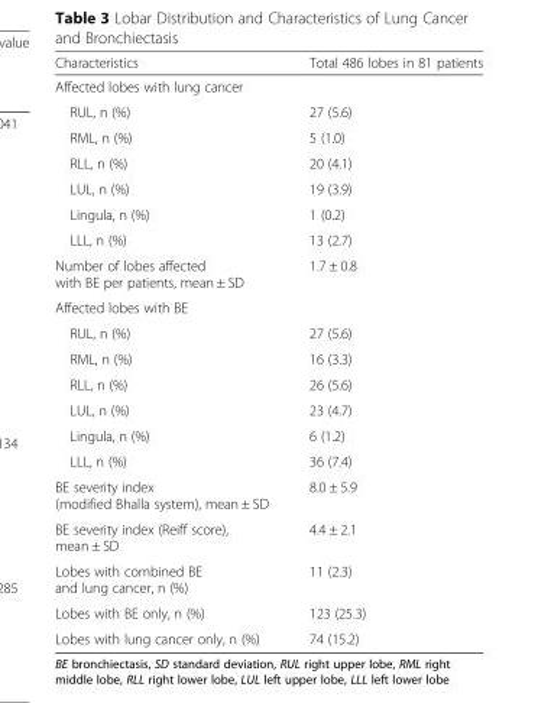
<table><thead><tr><td>Characteristics</td><td>Total 486 lobes in 81 patients</td></tr></thead><tbody><tr><td colspan="2">Affected lobes with lung cancer</td></tr><tr><td>RUL, n (%)</td><td>27 (5.6)</td></tr><tr><td>RML, n (%)</td><td>5 (1.0)</td></tr><tr><td>RLL, n (%)</td><td>20 (4.1)</td></tr><tr><td>LUL, n (%)</td><td>19 (3.9)</td></tr><tr><td>Lingula, n (%)</td><td>1 (0.2)</td></tr><tr><td>LLL, n (%)</td><td>13 (2.7)</td></tr><tr><td>Number of lobes affected with BE per patients, mean ± SD</td><td>1.7 ± 0.8</td></tr><tr><td colspan="2">Affected lobes with BE</td></tr><tr><td>RUL, n (%)</td><td>27 (5.6)</td></tr><tr><td>RML, n (%)</td><td>16 (3.3)</td></tr><tr><td>RLL, n (%)</td><td>26 (5.6)</td></tr><tr><td>LUL, n (%)</td><td>23 (4.7)</td></tr><tr><td>Lingula, n (%)</td><td>6 (1.2)</td></tr><tr><td>LLL, n (%)</td><td>36 (7.4)</td></tr><tr><td>BE severity index (modified Bhalla system), mean ± SD</td><td>8.0 ± 5.9</td></tr><tr><td>BE severity index (Reiff score), mean ± SD</td><td>4.4 ± 2.1</td></tr><tr><td>Lobes with combined BE and lung cancer, n (%)</td><td>11 (2.3)</td></tr><tr><td>Lobes with BE only, n (%)</td><td>123 (25.3)</td></tr><tr><td>Lobes with lung cancer only, n (%)</td><td>74 (15.2)</td></tr></tbody></table>